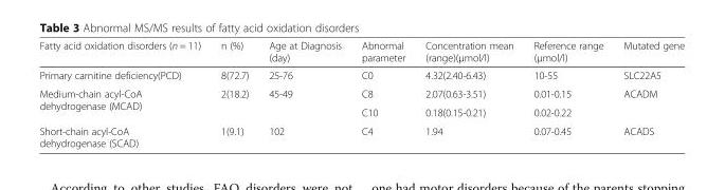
<table><thead><tr><td>Fatty acid oxidation disorders (n = 11)</td><td>n (%)</td><td>Age at Diagnosis (day)</td><td>Abnormal parameter</td><td>Concentration mean (range)(μmol/l)</td><td>Reference range (μmol/l)</td><td>Mutated gene</td></tr></thead><tbody><tr><td>Primary carnitine deficiency(PCD)</td><td>8(72.7)</td><td>25-76</td><td>C0</td><td>4.32(2.40-6.43)</td><td>10-55</td><td>SLC22A5</td></tr><tr><td rowspan="2">Medium-chain acyl-CoA dehydrogenase (MCAD)</td><td rowspan="2">2(18.2)</td><td rowspan="2">45-49</td><td>C8</td><td>2.07(0.63-3.51)</td><td>0.01-0.15</td><td rowspan="2">ACADM</td></tr><tr><td>C10</td><td>0.18(0.15-0.21)</td><td>0.02-0.22</td></tr><tr><td>Short-chain acyl-CoA dehydrogenase (SCAD)</td><td>1(9.1)</td><td>102</td><td>C4</td><td>1.94</td><td>0.07-0.45</td><td>ACADS</td></tr></tbody></table>